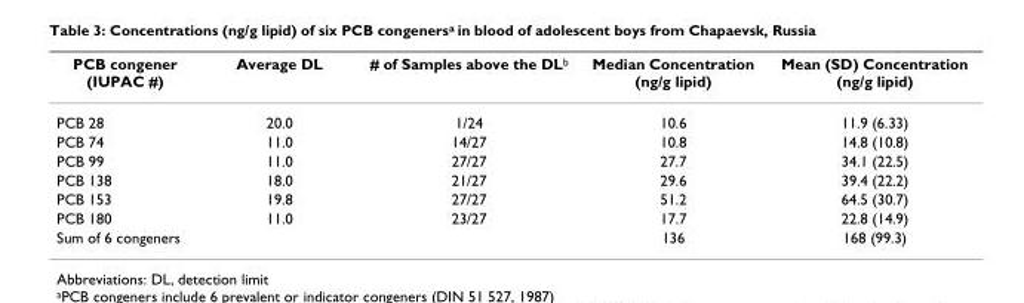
<table><thead><tr><td>PCB congener (IUPAC #)</td><td>Average DL</td><td># of Samples above the DL<sup>b</sup></td><td>Median Concentration (ng/g lipid)</td><td>Mean (SD) Concentration (ng/g lipid)</td></tr></thead><tbody><tr><td>PCB 28</td><td>20.0</td><td>1/24</td><td>10.6</td><td>11.9 (6.33)</td></tr><tr><td>PCB 74</td><td>11.0</td><td>14/27</td><td>10.8</td><td>14.8 (10.8)</td></tr><tr><td>PCB 99</td><td>11.0</td><td>27/27</td><td>27.7</td><td>34.1 (22.5)</td></tr><tr><td>PCB 138</td><td>18.0</td><td>21/27</td><td>29.6</td><td>39.4 (22.2)</td></tr><tr><td>PCB 153</td><td>19.8</td><td>27/27</td><td>51.2</td><td>64.5 (30.7)</td></tr><tr><td>PCB 180</td><td>11.0</td><td>23/27</td><td>17.7</td><td>22.8 (14.9)</td></tr><tr><td>Sum of 6 congeners</td><td></td><td></td><td>136</td><td>168 (99.3)</td></tr></tbody></table>